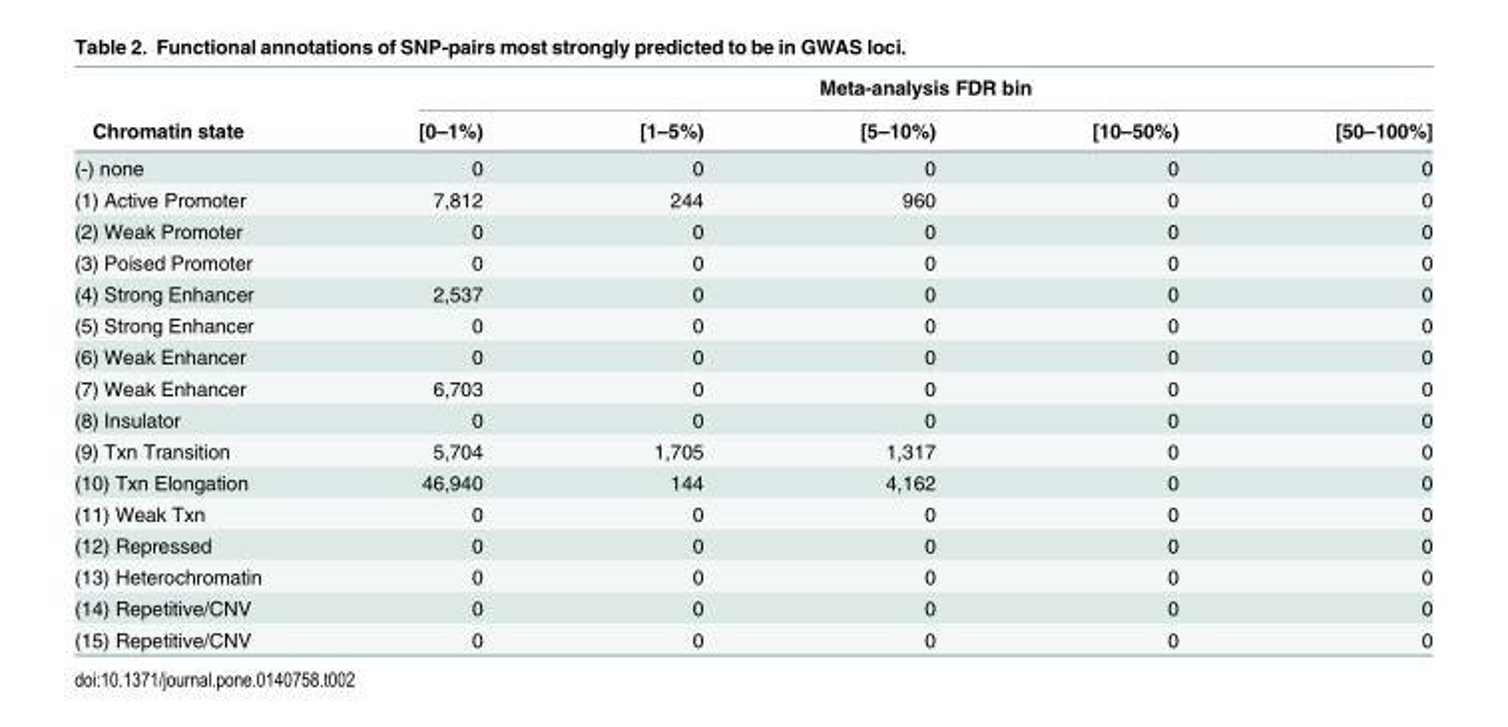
<table><thead><tr><td rowspan="2">Chromatin state</td><td colspan="5">Meta-analysis FDR bin</td></tr><tr><td>[0–1%)</td><td>[1–5%)</td><td>[5–10%)</td><td>[10–50%)</td><td>[50–100%]</td></tr></thead><tbody><tr><td>(-) none</td><td>0</td><td>0</td><td>0</td><td>0</td><td>0</td></tr><tr><td>(1) Active Promoter</td><td>7,812</td><td>244</td><td>960</td><td>0</td><td>0</td></tr><tr><td>(2) Weak Promoter</td><td>0</td><td>0</td><td>0</td><td>0</td><td>0</td></tr><tr><td>(3) Poised Promoter</td><td>0</td><td>0</td><td>0</td><td>0</td><td>0</td></tr><tr><td>(4) Strong Enhancer</td><td>2,537</td><td>0</td><td>0</td><td>0</td><td>0</td></tr><tr><td>(5) Strong Enhancer</td><td>0</td><td>0</td><td>0</td><td>0</td><td>0</td></tr><tr><td>(6) Weak Enhancer</td><td>0</td><td>0</td><td>0</td><td>0</td><td>0</td></tr><tr><td>(7) Weak Enhancer</td><td>6,703</td><td>0</td><td>0</td><td>0</td><td>0</td></tr><tr><td>(8) Insulator</td><td>0</td><td>0</td><td>0</td><td>0</td><td>0</td></tr><tr><td>(9) Txn Transition</td><td>5,704</td><td>1,705</td><td>1,317</td><td>0</td><td>0</td></tr><tr><td>(10) Txn Elongation</td><td>46,940</td><td>144</td><td>4,162</td><td>0</td><td>0</td></tr><tr><td>(11) Weak Txn</td><td>0</td><td>0</td><td>0</td><td>0</td><td>0</td></tr><tr><td>(12) Repressed</td><td>0</td><td>0</td><td>0</td><td>0</td><td>0</td></tr><tr><td>(13) Heterochromatin</td><td>0</td><td>0</td><td>0</td><td>0</td><td>0</td></tr><tr><td>(14) Repetitive/CNV</td><td>0</td><td>0</td><td>0</td><td>0</td><td>0</td></tr><tr><td>(15) Repetitive/CNV</td><td>0</td><td>0</td><td>0</td><td>0</td><td>0</td></tr></tbody></table>